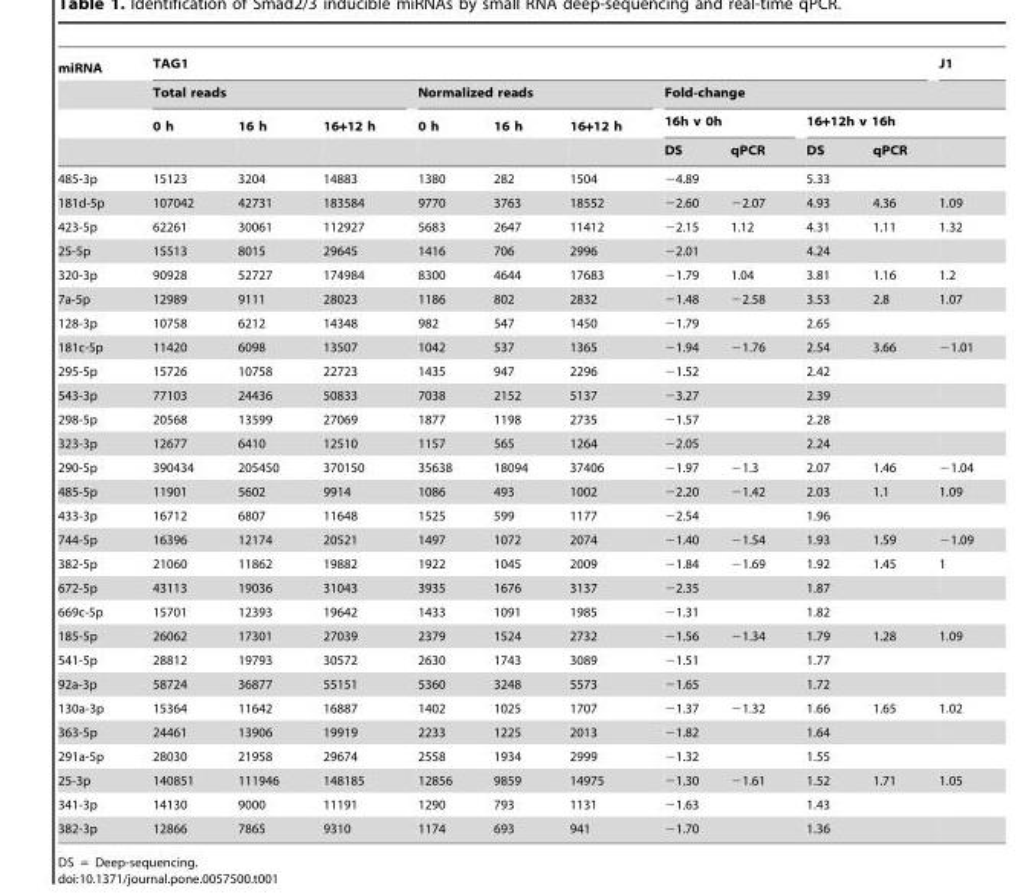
<table><thead><tr><td rowspan="4">miRNA</td><td colspan="10">TAG1</td><td>J1</td></tr><tr><td colspan="3">Total reads</td><td colspan="3">Normalized reads</td><td colspan="5">Fold-change</td></tr><tr><td rowspan="2">0 h</td><td rowspan="2">16 h</td><td rowspan="2">16+12 h</td><td rowspan="2">0 h</td><td rowspan="2">16 h</td><td rowspan="2">16+12 h</td><td colspan="2">16h v 0h</td><td colspan="3">16+12h v 16h</td></tr><tr><td>DS</td><td>qPCR</td><td>DS</td><td>qPCR</td><td></td></tr></thead><tbody><tr><td>485-3p</td><td>15123</td><td>3204</td><td>14883</td><td>1380</td><td>282</td><td>1504</td><td>−4.89</td><td></td><td>5.33</td><td></td><td></td></tr><tr><td>181d-5p</td><td>107042</td><td>42731</td><td>183584</td><td>9770</td><td>3763</td><td>18552</td><td>−2.60</td><td>−2.07</td><td>4.93</td><td>4.36</td><td>1.09</td></tr><tr><td>423-5p</td><td>62261</td><td>30061</td><td>112927</td><td>5683</td><td>2647</td><td>11412</td><td>−2.15</td><td>1.12</td><td>4.31</td><td>1.11</td><td>1.32</td></tr><tr><td>25-5p</td><td>15513</td><td>8015</td><td>29645</td><td>1416</td><td>706</td><td>2996</td><td>−2.01</td><td></td><td>4.24</td><td></td><td></td></tr><tr><td>320-3p</td><td>90928</td><td>52727</td><td>174984</td><td>8300</td><td>4644</td><td>17683</td><td>−1.79</td><td>1.04</td><td>3.81</td><td>1.16</td><td>1.2</td></tr><tr><td>7a-5p</td><td>12989</td><td>9111</td><td>28023</td><td>1186</td><td>802</td><td>2832</td><td>−1.48</td><td>−2.58</td><td>3.53</td><td>2.8</td><td>1.07</td></tr><tr><td>128-3p</td><td>10758</td><td>6212</td><td>14348</td><td>982</td><td>547</td><td>1450</td><td>−1.79</td><td></td><td>2.65</td><td></td><td></td></tr><tr><td>181c-5p</td><td>11420</td><td>6098</td><td>13507</td><td>1042</td><td>537</td><td>1365</td><td>−1.94</td><td>−1.76</td><td>2.54</td><td>3.66</td><td>−1.01</td></tr><tr><td>295-5p</td><td>15726</td><td>10758</td><td>22723</td><td>1435</td><td>947</td><td>2296</td><td>−1.52</td><td></td><td>2.42</td><td></td><td></td></tr><tr><td>543-3p</td><td>77103</td><td>24436</td><td>50833</td><td>7038</td><td>2152</td><td>5137</td><td>−3.27</td><td></td><td>2.39</td><td></td><td></td></tr><tr><td>298-5p</td><td>20568</td><td>13599</td><td>27069</td><td>1877</td><td>1198</td><td>2735</td><td>−1.57</td><td></td><td>2.28</td><td></td><td></td></tr><tr><td>323-3p</td><td>12677</td><td>6410</td><td>12510</td><td>1157</td><td>565</td><td>1264</td><td>−2.05</td><td></td><td>2.24</td><td></td><td></td></tr><tr><td>290-5p</td><td>390434</td><td>205450</td><td>370150</td><td>35638</td><td>18094</td><td>37406</td><td>−1.97</td><td>−1.3</td><td>2.07</td><td>1.46</td><td>−1.04</td></tr><tr><td>485-5p</td><td>11901</td><td>5602</td><td>9914</td><td>1086</td><td>493</td><td>1002</td><td>−2.20</td><td>−1.42</td><td>2.03</td><td>1.1</td><td>1.09</td></tr><tr><td>433-3p</td><td>16712</td><td>6807</td><td>11648</td><td>1525</td><td>599</td><td>1177</td><td>−2.54</td><td></td><td>1.96</td><td></td><td></td></tr><tr><td>744-5p</td><td>16396</td><td>12174</td><td>20521</td><td>1497</td><td>1072</td><td>2074</td><td>−1.40</td><td>−1.54</td><td>1.93</td><td>1.59</td><td>−1.09</td></tr><tr><td>382-5p</td><td>21060</td><td>11862</td><td>19882</td><td>1922</td><td>1045</td><td>2009</td><td>−1.84</td><td>−1.69</td><td>1.92</td><td>1.45</td><td>1</td></tr><tr><td>672-5p</td><td>43113</td><td>19036</td><td>31043</td><td>3935</td><td>1676</td><td>3137</td><td>−2.35</td><td></td><td>1.87</td><td></td><td></td></tr><tr><td>669c-5p</td><td>15701</td><td>12393</td><td>19642</td><td>1433</td><td>1091</td><td>1985</td><td>−1.31</td><td></td><td>1.82</td><td></td><td></td></tr><tr><td>185-5p</td><td>26062</td><td>17301</td><td>27039</td><td>2379</td><td>1524</td><td>2732</td><td>−1.56</td><td>−1.34</td><td>1.79</td><td>1.28</td><td>1.09</td></tr><tr><td>541-5p</td><td>28812</td><td>19793</td><td>30572</td><td>2630</td><td>1743</td><td>3089</td><td>−1.51</td><td></td><td>1.77</td><td></td><td></td></tr><tr><td>92a-3p</td><td>58724</td><td>36877</td><td>55151</td><td>5360</td><td>3248</td><td>5573</td><td>−1.65</td><td></td><td>1.72</td><td></td><td></td></tr><tr><td>130a-3p</td><td>15364</td><td>11642</td><td>16887</td><td>1402</td><td>1025</td><td>1707</td><td>−1.37</td><td>−1.32</td><td>1.66</td><td>1.65</td><td>1.02</td></tr><tr><td>363-5p</td><td>24461</td><td>13906</td><td>19919</td><td>2233</td><td>1225</td><td>2013</td><td>−1.82</td><td></td><td>1.64</td><td></td><td></td></tr><tr><td>291a-5p</td><td>28030</td><td>21958</td><td>29674</td><td>2558</td><td>1934</td><td>2999</td><td>−1.32</td><td></td><td>1.55</td><td></td><td></td></tr><tr><td>25-3p</td><td>140851</td><td>111946</td><td>148185</td><td>12856</td><td>9859</td><td>14975</td><td>−1.30</td><td>−1.61</td><td>1.52</td><td>1.71</td><td>1.05</td></tr><tr><td>341-3p</td><td>14130</td><td>9000</td><td>11191</td><td>1290</td><td>793</td><td>1131</td><td>−1.63</td><td></td><td>1.43</td><td></td><td></td></tr><tr><td>382-3p</td><td>12866</td><td>7865</td><td>9310</td><td>1174</td><td>693</td><td>941</td><td>−1.70</td><td></td><td>1.36</td><td></td><td></td></tr></tbody></table>